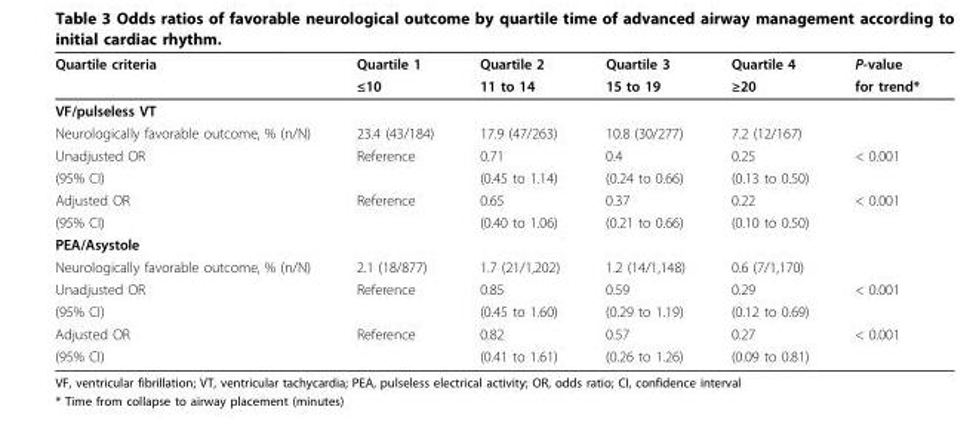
<table><thead><tr><td rowspan="2">Quartile criteria</td><td rowspan="2">Quartile 1 ≤10</td><td rowspan="2">Quartile 2 11 to 14</td><td rowspan="2">Quartile 3 15 to 19</td><td rowspan="2">Quartile 4 ≥20</td><td rowspan="2">P-value for trend*</td></tr><tr></tr></thead><tbody><tr><td colspan="6">VF/pulseless VT</td></tr><tr><td>Neurologically favorable outcome, % (n/N)</td><td>23.4 (43/184)</td><td>17.9 (47/263)</td><td>10.8 (30/277)</td><td>7.2 (12/167)</td><td></td></tr><tr><td>Unadjusted OR</td><td>Reference</td><td>0.71</td><td>0.4</td><td>0.25</td><td>&lt; 0.001</td></tr><tr><td>(95% CI)</td><td></td><td>(0.45 to 1.14)</td><td>(0.24 to 0.66)</td><td>(0.13 to 0.50)</td><td></td></tr><tr><td>Adjusted OR</td><td>Reference</td><td>0.65</td><td>0.37</td><td>0.22</td><td>&lt; 0.001</td></tr><tr><td>(95% CI)</td><td></td><td>(0.40 to 1.06)</td><td>(0.21 to 0.66)</td><td>(0.10 to 0.50)</td><td></td></tr><tr><td colspan="6">PEA/Asystole</td></tr><tr><td>Neurologically favorable outcome, % (n/N)</td><td>2.1 (18/877)</td><td>1.7 (21/1,202)</td><td>1.2 (14/1,148)</td><td>0.6 (7/1,170)</td><td></td></tr><tr><td>Unadjusted OR</td><td>Reference</td><td>0.85</td><td>0.59</td><td>0.29</td><td>&lt; 0.001</td></tr><tr><td>(95% CI)</td><td></td><td>(0.45 to 1.60)</td><td>(0.29 to 1.19)</td><td>(0.12 to 0.69)</td><td></td></tr><tr><td>Adjusted OR</td><td>Reference</td><td>0.82</td><td>0.57</td><td>0.27</td><td>&lt; 0.001</td></tr><tr><td>(95% CI)</td><td></td><td>(0.41 to 1.61)</td><td>(0.26 to 1.26)</td><td>(0.09 to 0.81)</td><td></td></tr></tbody></table>